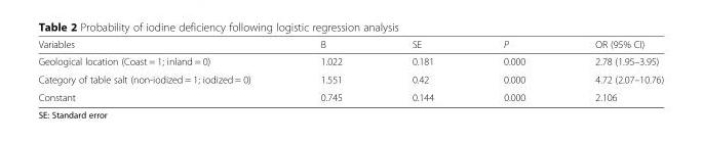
<table><thead><tr><td>Variables</td><td>B</td><td>SE</td><td>P</td><td>OR (95% CI)</td></tr></thead><tbody><tr><td>Geological location (Coast = 1; inland = 0)</td><td>1.022</td><td>0.181</td><td>0.000</td><td>2.78 (1.95–3.95)</td></tr><tr><td>Category of table salt (non-iodized = 1; iodized = 0)</td><td>1.551</td><td>0.42</td><td>0.000</td><td>4.72 (2.07–10.76)</td></tr><tr><td>Constant</td><td>0.745</td><td>0.144</td><td>0.000</td><td>2.106</td></tr></tbody></table>